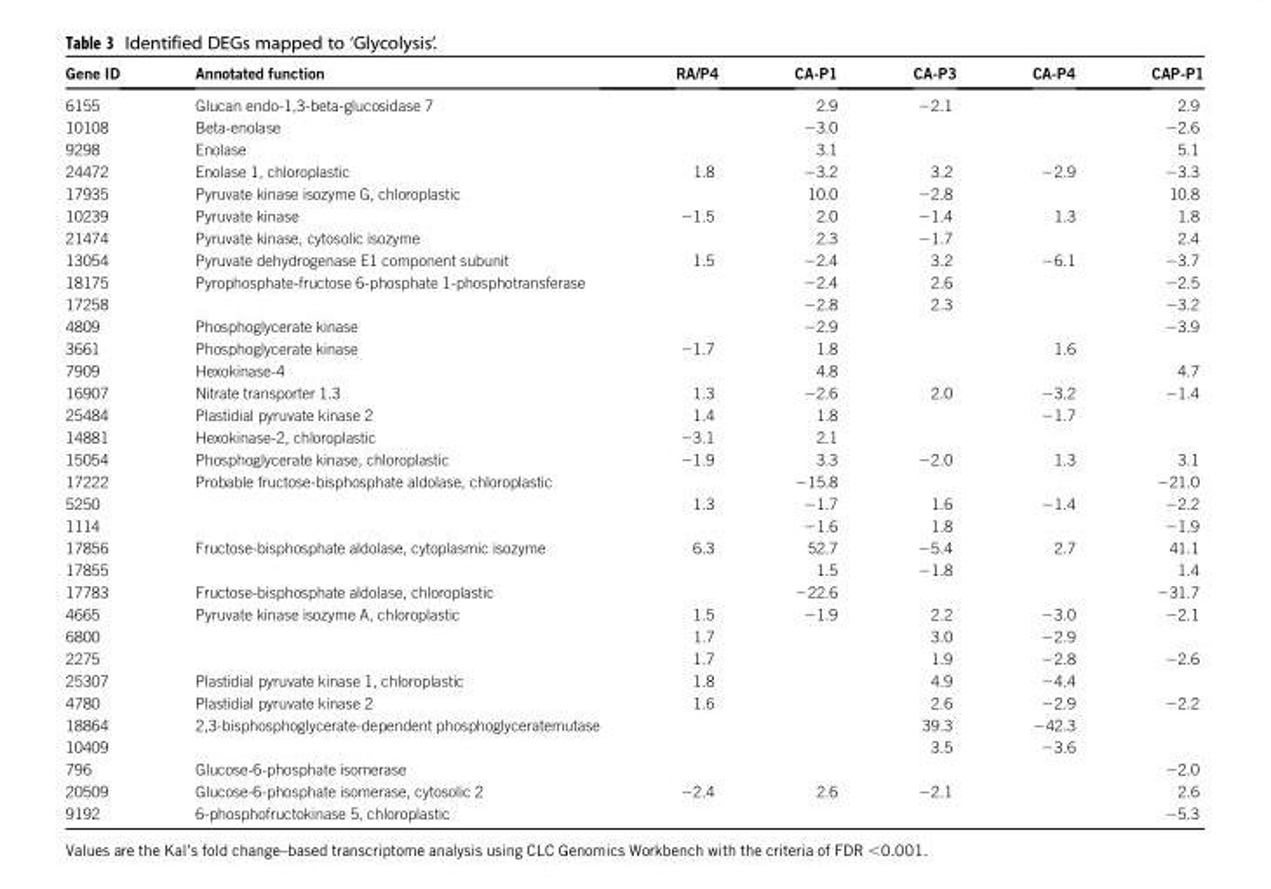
<table><thead><tr><td>Gene ID</td><td>Annotated function</td><td>RA/P4</td><td>CA-P1</td><td>CA-P3</td><td>CA-P4</td><td>CAP-P1</td></tr></thead><tbody><tr><td>6155</td><td>Glucan endo-1,3-beta-glucosidase 7</td><td></td><td>2.9</td><td>−2.1</td><td></td><td>2.9</td></tr><tr><td>10108</td><td>Beta-enolase</td><td></td><td>−3.0</td><td></td><td></td><td>−2.6</td></tr><tr><td>9298</td><td>Enolase</td><td></td><td>3.1</td><td></td><td></td><td>5.1</td></tr><tr><td>24472</td><td>Enolase 1, chloroplastic</td><td>1.8</td><td>−3.2</td><td>3.2</td><td>−2.9</td><td>−3.3</td></tr><tr><td>17935</td><td>Pyruvate kinase isozyme G, chloroplastic</td><td></td><td>10.0</td><td>−2.8</td><td></td><td>10.8</td></tr><tr><td>10239</td><td>Pyruvate kinase</td><td>−1.5</td><td>2.0</td><td>−1.4</td><td>1.3</td><td>1.8</td></tr><tr><td>21474</td><td>Pyruvate kinase, cytosolic isozyme</td><td></td><td>2.3</td><td>−1.7</td><td></td><td>2.4</td></tr><tr><td>13054</td><td>Pyruvate dehydrogenase E1 component subunit</td><td>1.5</td><td>−2.4</td><td>3.2</td><td>−6.1</td><td>−3.7</td></tr><tr><td>18175</td><td rowspan="2">Pyrophosphate-fructose 6-phosphate 1-phosphotransferase</td><td></td><td>−2.4</td><td>2.6</td><td></td><td>−2.5</td></tr><tr><td>17258</td><td></td><td>−2.8</td><td>2.3</td><td></td><td>−3.2</td></tr><tr><td>4809</td><td>Phosphoglycerate kinase</td><td></td><td>−2.9</td><td></td><td></td><td>−3.9</td></tr><tr><td>3661</td><td>Phosphoglycerate kinase</td><td>−1.7</td><td>1.8</td><td></td><td>1.6</td><td></td></tr><tr><td>7909</td><td>Hexokinase-4</td><td></td><td>4.8</td><td></td><td></td><td>4.7</td></tr><tr><td>16907</td><td>Nitrate transporter 1.3</td><td>1.3</td><td>−2.6</td><td>2.0</td><td>−3.2</td><td>−1.4</td></tr><tr><td>25484</td><td>Plastidial pyruvate kinase 2</td><td>1.4</td><td>1.8</td><td></td><td>−1.7</td><td></td></tr><tr><td>14881</td><td>Hexokinase-2, chloroplastic</td><td>−3.1</td><td>2.1</td><td></td><td></td><td></td></tr><tr><td>15054</td><td>Phosphoglycerate kinase, chloroplastic</td><td>−1.9</td><td>3.3</td><td>−2.0</td><td>1.3</td><td>3.1</td></tr><tr><td>17222</td><td rowspan="3">Probable fructose-bisphosphate aldolase, chloroplastic</td><td></td><td>−15.8</td><td></td><td></td><td>−21.0</td></tr><tr><td>5250</td><td>1.3</td><td>−1.7</td><td>1.6</td><td>−1.4</td><td>−2.2</td></tr><tr><td>1114</td><td></td><td>−1.6</td><td>1.8</td><td></td><td>−1.9</td></tr><tr><td>17856</td><td rowspan="2">Fructose-bisphosphate aldolase, cytoplasmic isozyme</td><td>6.3</td><td>52.7</td><td>−5.4</td><td>2.7</td><td>41.1</td></tr><tr><td>17855</td><td></td><td>1.5</td><td>−1.8</td><td></td><td>1.4</td></tr><tr><td>17783</td><td>Fructose-bisphosphate aldolase, chloroplastic</td><td></td><td>−22.6</td><td></td><td></td><td>−31.7</td></tr><tr><td>4665</td><td rowspan="3">Pyruvate kinase isozyme A, chloroplastic</td><td>1.5</td><td>−1.9</td><td>2.2</td><td>−3.0</td><td>−2.1</td></tr><tr><td>6800</td><td>1.7</td><td></td><td>3.0</td><td>−2.9</td><td></td></tr><tr><td>2275</td><td>1.7</td><td></td><td>1.9</td><td>−2.8</td><td>−2.6</td></tr><tr><td>25307</td><td>Plastidial pyruvate kinase 1, chloroplastic</td><td>1.8</td><td></td><td>4.9</td><td>−4.4</td><td></td></tr><tr><td>4780</td><td>Plastidial pyruvate kinase 2</td><td>1.6</td><td></td><td>2.6</td><td>−2.9</td><td>−2.2</td></tr><tr><td>18864</td><td rowspan="2">2,3-bisphosphoglycerate-dependent phosphoglyceratemutase</td><td></td><td></td><td>39.3</td><td>−42.3</td><td></td></tr><tr><td>10409</td><td></td><td></td><td>3.5</td><td>−3.6</td><td></td></tr><tr><td>796</td><td>Glucose-6-phosphate isomerase</td><td></td><td></td><td></td><td></td><td>−2.0</td></tr><tr><td>20509</td><td>Glucose-6-phosphate isomerase, cytosolic 2</td><td>−2.4</td><td>2.6</td><td>−2.1</td><td></td><td>2.6</td></tr><tr><td>9192</td><td>6-phosphofructokinase 5, chloroplastic</td><td></td><td></td><td></td><td></td><td>−5.3</td></tr></tbody></table>